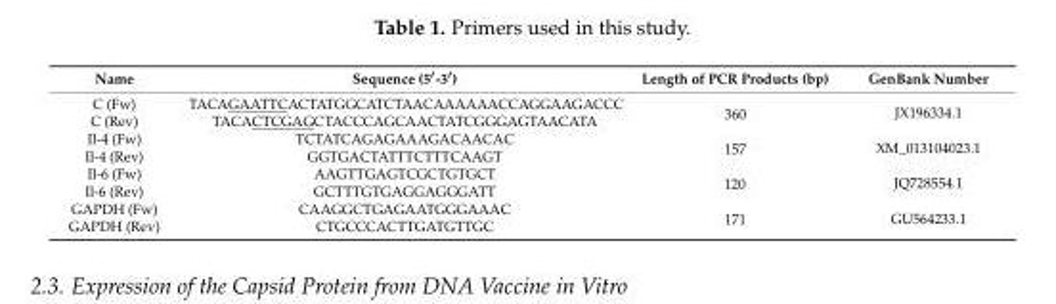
<table><thead><tr><td>Name</td><td>Sequence (5′-3′)</td><td>Length of PCR Products (bp)</td><td>GenBank Number</td></tr></thead><tbody><tr><td>C (Fw)</td><td>TACAGAATTCACTATGGCATCTAACAAAAAACCAGGAAGACCC</td><td rowspan="2">360</td><td rowspan="2">JX196334.1</td></tr><tr><td>C (Rev)</td><td>TACACTCGAGCTACCCAGCAACTATCGGGAGTAACATA</td></tr><tr><td>Il-4 (Fw)</td><td>TCTATCAGAGAAAGACAACAC</td><td rowspan="2">157</td><td rowspan="2">XM_013104023.1</td></tr><tr><td>Il-4 (Rev)</td><td>GGTGACTATTTCTTTCAAGT</td></tr><tr><td>Il-6 (Fw)</td><td>AAGTTGAGTCGCTGTGCT</td><td rowspan="2">120</td><td rowspan="2">JQ728554.1</td></tr><tr><td>Il-6 (Rev)</td><td>GCTTTGTGAGGAGGGATT</td></tr><tr><td>GAPDH (Fw)</td><td>CAAGGCTGAGAATGGGAAAC</td><td rowspan="2">171</td><td rowspan="2">GU564233.1</td></tr><tr><td>GAPDH (Rev)</td><td>CTGCCCACTTGATGTTGC</td></tr></tbody></table>